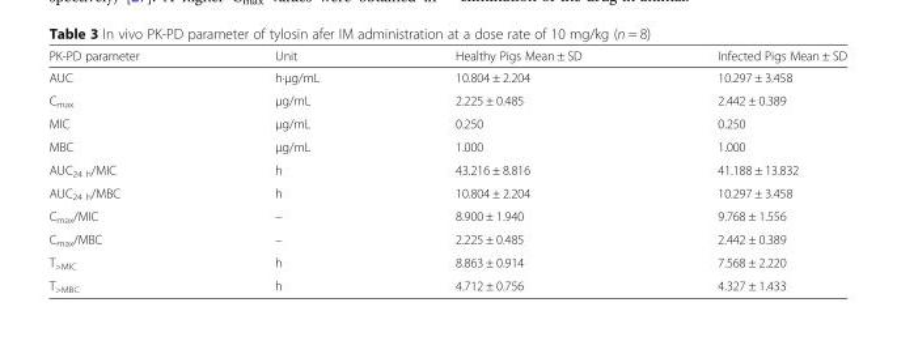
<table><thead><tr><td>PK-PD parameter</td><td>Unit</td><td>Healthy Pigs Mean ± SD</td><td>Infected Pigs Mean ± SD</td></tr></thead><tbody><tr><td>AUC</td><td>h·μg/mL</td><td>10.804 ± 2.204</td><td>10.297 ± 3.458</td></tr><tr><td>C<sub>max</sub></td><td>μg/mL</td><td>2.225 ± 0.485</td><td>2.442 ± 0.389</td></tr><tr><td>MIC</td><td>μg/mL</td><td>0.250</td><td>0.250</td></tr><tr><td>MBC</td><td>μg/mL</td><td>1.000</td><td>1.000</td></tr><tr><td>AUC<sub>24 h</sub>/MIC</td><td>h</td><td>43.216 ± 8.816</td><td>41.188 ± 13.832</td></tr><tr><td>AUC<sub>24 h</sub>/MBC</td><td>h</td><td>10.804 ± 2.204</td><td>10.297 ± 3.458</td></tr><tr><td>C<sub>max</sub>/MIC</td><td>–</td><td>8.900 ± 1.940</td><td>9.768 ± 1.556</td></tr><tr><td>C<sub>max</sub>/MBC</td><td>–</td><td>2.225 ± 0.485</td><td>2.442 ± 0.389</td></tr><tr><td>T<sub>&gt;MIC</sub></td><td>h</td><td>8.863 ± 0.914</td><td>7.568 ± 2.220</td></tr><tr><td>T<sub>&gt;MBC</sub></td><td>h</td><td>4.712 ± 0.756</td><td>4.327 ± 1.433</td></tr></tbody></table>